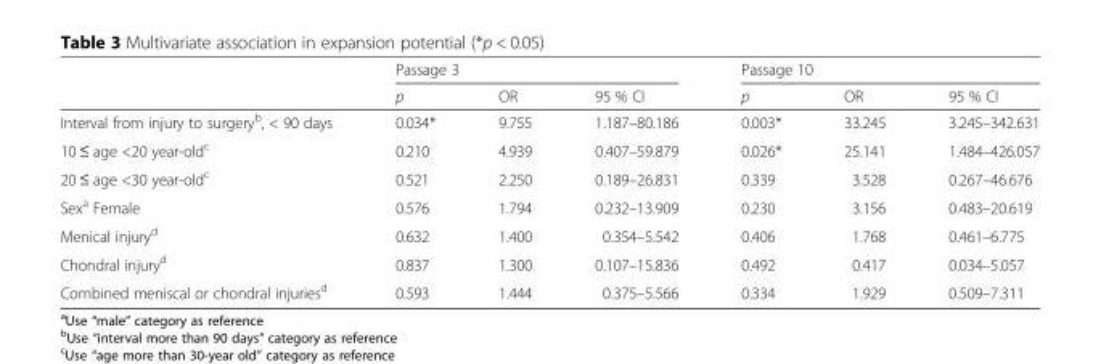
<table><thead><tr><td rowspan="2"></td><td colspan="3">Passage 3</td><td colspan="3">Passage 10</td></tr><tr><td>p</td><td>OR</td><td>95 % CI</td><td>p</td><td>OR</td><td>95 % CI</td></tr></thead><tbody><tr><td>Interval from injury to surgery<sup>b</sup>, &lt; 90 days</td><td>0.034*</td><td>9.755</td><td>1.187–80.186</td><td>0.003*</td><td>33.245</td><td>3.245–342.631</td></tr><tr><td>10 ≤ age &lt;20 year-old<sup>c</sup></td><td>0.210</td><td>4.939</td><td>0.407–59.879</td><td>0.026*</td><td>25.141</td><td>1.484–426.057</td></tr><tr><td>20 ≤ age &lt;30 year-old<sup>c</sup></td><td>0.521</td><td>2.250</td><td>0.189–26.831</td><td>0.339</td><td>3.528</td><td>0.267–46.676</td></tr><tr><td>Sex<sup>a</sup> Female</td><td>0.576</td><td>1.794</td><td>0.232–13.909</td><td>0.230</td><td>3.156</td><td>0.483–20.619</td></tr><tr><td>Menical injury<sup>d</sup></td><td>0.632</td><td>1.400</td><td>0.354–5.542</td><td>0.406</td><td>1.768</td><td>0.461–6.775</td></tr><tr><td>Chondral injury<sup>d</sup></td><td>0.837</td><td>1.300</td><td>0.107–15.836</td><td>0.492</td><td>0.417</td><td>0.034–5.057</td></tr><tr><td>Combined meniscal or chondral injuries<sup>d</sup></td><td>0.593</td><td>1.444</td><td>0.375–5.566</td><td>0.334</td><td>1.929</td><td>0.509–7.311</td></tr></tbody></table>